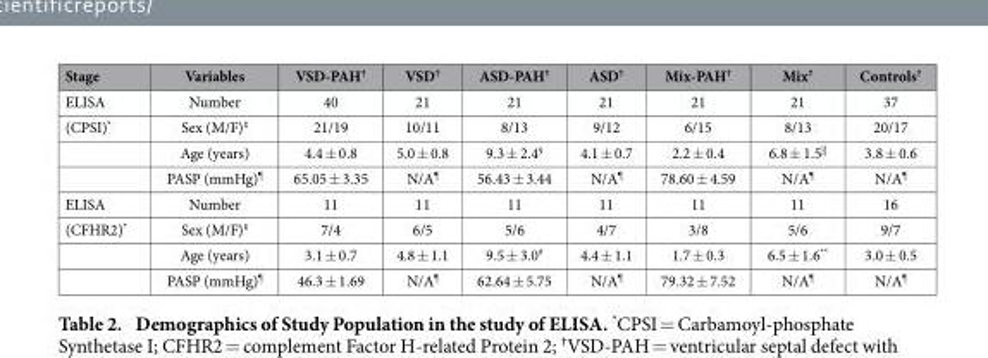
<table><thead><tr><td>Stage</td><td>Variables</td><td>VSD-PAH<sup>†</sup></td><td>VSD<sup>†</sup></td><td>ASD-PAH<sup>†</sup></td><td>ASD<sup>†</sup></td><td>Mix-PAH<sup>†</sup></td><td>Mix<sup>†</sup></td><td>Controls<sup>†</sup></td></tr></thead><tbody><tr><td>ELISA</td><td>Number</td><td>40</td><td>21</td><td>21</td><td>21</td><td>21</td><td>21</td><td>37</td></tr><tr><td rowspan="3">(CPSI)*</td><td>Sex (M/F)<sup>‡</sup></td><td>21/19</td><td>10/11</td><td>8/13</td><td>9/12</td><td>6/15</td><td>8/13</td><td>20/17</td></tr><tr><td>Age (years)</td><td>4.4 ± 0.8</td><td>5.0 ± 0.8</td><td>9.3 ± 2.4<sup>§</sup></td><td>4.1 ± 0.7</td><td>2.2 ± 0.4</td><td>6.8 ± 1.5<sup>||</sup></td><td>3.8 ± 0.6</td></tr><tr><td>PASP (mmHg)<sup>¶</sup></td><td>65.05 ± 3.35</td><td>N/A<sup>¶</sup></td><td>56.43 ± 3.44</td><td>N/A<sup>¶</sup></td><td>78.60 ± 4.59</td><td>N/A<sup>¶</sup></td><td>N/A<sup>¶</sup></td></tr><tr><td>ELISA</td><td>Number</td><td>11</td><td>11</td><td>11</td><td>11</td><td>11</td><td>11</td><td>16</td></tr><tr><td rowspan="3">(CFHR2)*</td><td>Sex (M/F)<sup>‡</sup></td><td>7/4</td><td>6/5</td><td>5/6</td><td>4/7</td><td>3/8</td><td>5/6</td><td>9/7</td></tr><tr><td>Age (years)</td><td>3.1 ± 0.7</td><td>4.8 ± 1.1</td><td>9.5 ± 3.0<sup>#</sup></td><td>4.4 ± 1.1</td><td>1.7 ± 0.3</td><td>6.5 ± 1.6**</td><td>3.0 ± 0.5</td></tr><tr><td>PASP (mmHg)<sup>¶</sup></td><td>46.3 ± 1.69</td><td>N/A<sup>¶</sup></td><td>62.64 ± 5.75</td><td>N/A<sup>¶</sup></td><td>79.32 ± 7.52</td><td>N/A<sup>¶</sup></td><td>N/A<sup>¶</sup></td></tr></tbody></table>